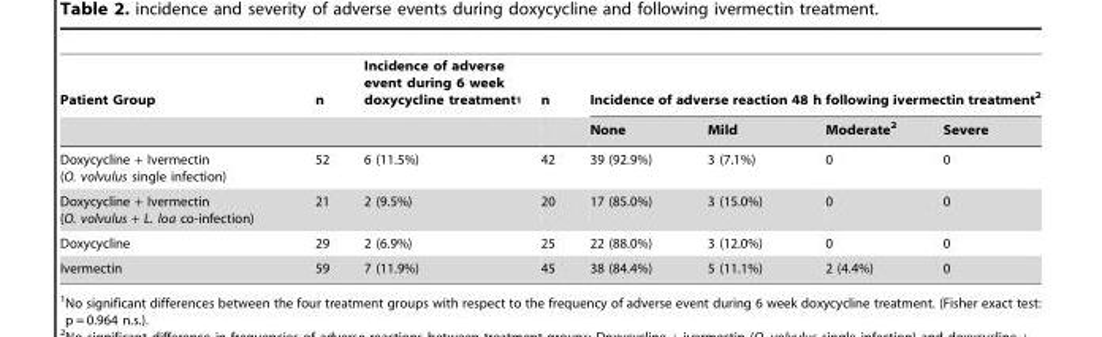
<table><thead><tr><td rowspan="2">Patient Group</td><td rowspan="2">n</td><td rowspan="2">Incidence of adverse event during 6 week doxycycline treatment<sup>1</sup></td><td rowspan="2">n</td><td colspan="4">Incidence of adverse reaction 48 h following ivermectin treatment<sup>2</sup></td></tr><tr><td>None</td><td>Mild</td><td>Moderate<sup>2</sup></td><td>Severe</td></tr></thead><tbody><tr><td>Doxycycline + Ivermectin (O. volvulus single infection)</td><td>52</td><td>6 (11.5%)</td><td>42</td><td>39 (92.9%)</td><td>3 (7.1%)</td><td>0</td><td>0</td></tr><tr><td>Doxycycline + Ivermectin (O. volvulus + L. loa co-infection)</td><td>21</td><td>2 (9.5%)</td><td>20</td><td>17 (85.0%)</td><td>3 (15.0%)</td><td>0</td><td>0</td></tr><tr><td>Doxycycline</td><td>29</td><td>2 (6.9%)</td><td>25</td><td>22 (88.0%)</td><td>3 (12.0%)</td><td>0</td><td>0</td></tr><tr><td>Ivermectin</td><td>59</td><td>7 (11.9%)</td><td>45</td><td>38 (84.4%)</td><td>5 (11.1%)</td><td>2 (4.4%)</td><td>0</td></tr></tbody></table>